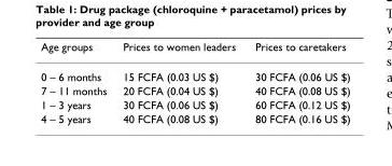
<table><thead><tr><td>Age groups</td><td>Prices to women leaders</td><td>Prices to caretakers</td></tr></thead><tbody><tr><td>0 – 6 months</td><td>15 FCFA (0.03 US $)</td><td>30 FCFA (0.06 US $)</td></tr><tr><td>7 – 11 months</td><td>20 FCFA (0.04 US $)</td><td>40 FCFA (0.08 US $)</td></tr><tr><td>1 – 3 years</td><td>30 FCFA (0.06 US $)</td><td>60 FCFA (0.12 US $)</td></tr><tr><td>4 – 5 years</td><td>40 FCFA (0.08 US $)</td><td>80 FCFA (0.16 US $)</td></tr></tbody></table>